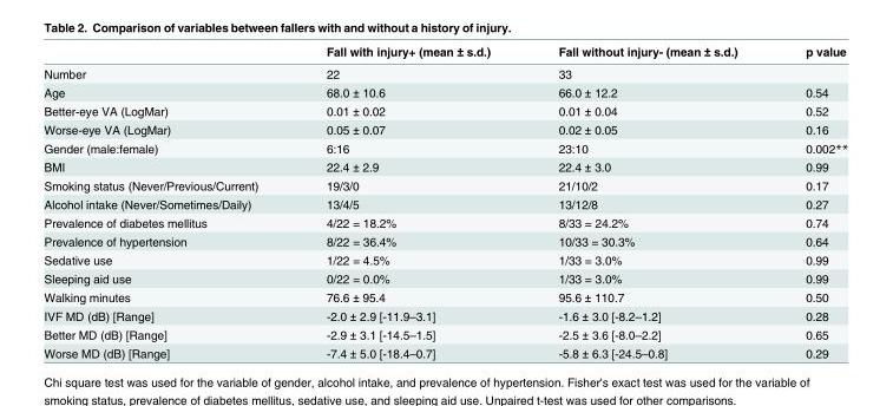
<table><thead><tr><td></td><td>Fall with injury+ (mean ± s.d.)</td><td>Fall without injury- (mean ± s.d.)</td><td>p value</td></tr></thead><tbody><tr><td>Number</td><td>22</td><td>33</td><td></td></tr><tr><td>Age</td><td>68.0 ± 10.6</td><td>66.0 ± 12.2</td><td>0.54</td></tr><tr><td>Better-eye VA (LogMar)</td><td>0.01 ± 0.02</td><td>0.01 ± 0.04</td><td>0.52</td></tr><tr><td>Worse-eye VA (LogMar)</td><td>0.05 ± 0.07</td><td>0.02 ± 0.05</td><td>0.16</td></tr><tr><td>Gender (male:female)</td><td>6:16</td><td>23:10</td><td>0.002**</td></tr><tr><td>BMI</td><td>22.4 ± 2.9</td><td>22.4 ± 3.0</td><td>0.99</td></tr><tr><td>Smoking status (Never/Previous/Current)</td><td>19/3/0</td><td>21/10/2</td><td>0.17</td></tr><tr><td>Alcohol intake (Never/Sometimes/Daily)</td><td>13/4/5</td><td>13/12/8</td><td>0.27</td></tr><tr><td>Prevalence of diabetes mellitus</td><td>4/22 = 18.2%</td><td>8/33 = 24.2%</td><td>0.74</td></tr><tr><td>Prevalence of hypertension</td><td>8/22 = 36.4%</td><td>10/33 = 30.3%</td><td>0.64</td></tr><tr><td>Sedative use</td><td>1/22 = 4.5%</td><td>1/33 = 3.0%</td><td>0.99</td></tr><tr><td>Sleeping aid use</td><td>0/22 = 0.0%</td><td>1/33 = 3.0%</td><td>0.99</td></tr><tr><td>Walking minutes</td><td>76.6 ± 95.4</td><td>95.6 ± 110.7</td><td>0.50</td></tr><tr><td>IVF MD (dB) [Range]</td><td>-2.0 ± 2.9 [-11.9–3.1]</td><td>-1.6 ± 3.0 [-8.2–1.2]</td><td>0.28</td></tr><tr><td>Better MD (dB) [Range]</td><td>-2.9 ± 3.1 [-14.5–1.5]</td><td>-2.5 ± 3.6 [-8.0–2.2]</td><td>0.65</td></tr><tr><td>Worse MD (dB) [Range]</td><td>-7.4 ± 5.0 [-18.4–0.7]</td><td>-5.8 ± 6.3 [-24.5–0.8]</td><td>0.29</td></tr></tbody></table>